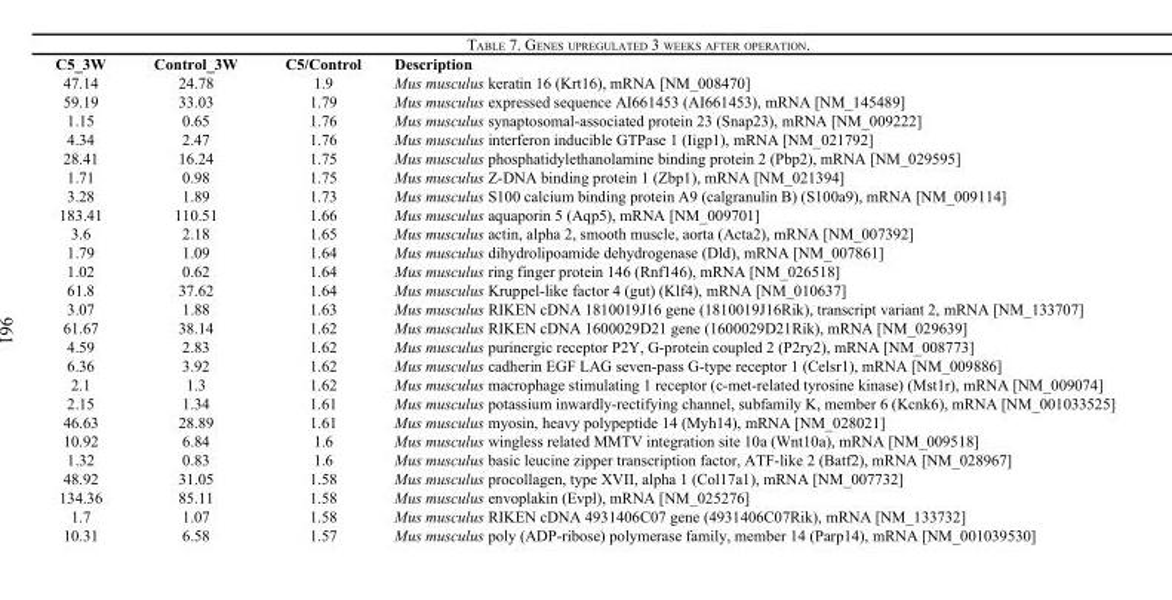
<table><thead><tr><td>C5_3W</td><td>Control_3W</td><td>C5/Control</td><td>Description</td></tr></thead><tbody><tr><td>47.14</td><td>24.78</td><td>1.9</td><td>Mus musculus keratin 16 (Krt16), mRNA [NM_008470]</td></tr><tr><td>59.19</td><td>33.03</td><td>1.79</td><td>Mus musculus expressed sequence AI661453 (AI661453), mRNA [NM_145489]</td></tr><tr><td>1.15</td><td>0.65</td><td>1.76</td><td>Mus musculus synaptosomal-associated protein 23 (Snap23), mRNA [NM_009222]</td></tr><tr><td>4.34</td><td>2.47</td><td>1.76</td><td>Mus musculus interferon inducible GTPase 1 (Iigp1), mRNA [NM_021792]</td></tr><tr><td>28.41</td><td>16.24</td><td>1.75</td><td>Mus musculus phosphatidylethanolamine binding protein 2 (Pbp2), mRNA [NM_029595]</td></tr><tr><td>1.71</td><td>0.98</td><td>1.75</td><td>Mus musculus Z-DNA binding protein 1 (Zbp1), mRNA [NM_021394]</td></tr><tr><td>3.28</td><td>1.89</td><td>1.73</td><td>Mus musculus S100 calcium binding protein A9 (calgranulin B) (S100a9), mRNA [NM_009114]</td></tr><tr><td>183.41</td><td>110.51</td><td>1.66</td><td>Mus musculus aquaporin 5 (Aqp5), mRNA [NM_009701]</td></tr><tr><td>3.6</td><td>2.18</td><td>1.65</td><td>Mus musculus actin, alpha 2, smooth muscle, aorta (Acta2), mRNA [NM_007392]</td></tr><tr><td>1.79</td><td>1.09</td><td>1.64</td><td>Mus musculus dihydrolipoamide dehydrogenase (Dld), mRNA [NM_007861]</td></tr><tr><td>1.02</td><td>0.62</td><td>1.64</td><td>Mus musculus ring finger protein 146 (Rnf146), mRNA [NM_026518]</td></tr><tr><td>61.8</td><td>37.62</td><td>1.64</td><td>Mus musculus Kruppel-like factor 4 (gut) (Klf4), mRNA [NM_010637]</td></tr><tr><td>3.07</td><td>1.88</td><td>1.63</td><td>Mus musculus RIKEN cDNA 1810019J16 gene (1810019J16Rik), transcript variant 2, mRNA [NM_133707]</td></tr><tr><td>61.67</td><td>38.14</td><td>1.62</td><td>Mus musculus RIKEN cDNA 1600029D21 gene (1600029D21Rik), mRNA [NM_029639]</td></tr><tr><td>4.59</td><td>2.83</td><td>1.62</td><td>Mus musculus purinergic receptor P2Y, G-protein coupled 2 (P2ry2), mRNA [NM_008773]</td></tr><tr><td>6.36</td><td>3.92</td><td>1.62</td><td>Mus musculus cadherin EGF LAG seven-pass G-type receptor 1 (Celsr1), mRNA [NM_009886]</td></tr><tr><td>2.1</td><td>1.3</td><td>1.62</td><td>Mus musculus macrophage stimulating 1 receptor (c-met-related tyrosine kinase) (Mst1r), mRNA [NM_009074]</td></tr><tr><td>2.15</td><td>1.34</td><td>1.61</td><td>Mus musculus potassium inwardly-rectifying channel, subfamily K, member 6 (Kcnk6), mRNA [NM_001033525]</td></tr><tr><td>46.63</td><td>28.89</td><td>1.61</td><td>Mus musculus myosin, heavy polypeptide 14 (Myh14), mRNA [NM_028021]</td></tr><tr><td>10.92</td><td>6.84</td><td>1.6</td><td>Mus musculus wingless related MMTV integration site 10a (Wnt10a), mRNA [NM_009518]</td></tr><tr><td>1.32</td><td>0.83</td><td>1.6</td><td>Mus musculus basic leucine zipper transcription factor, ATF-like 2 (Batf2), mRNA [NM_028967]</td></tr><tr><td>48.92</td><td>31.05</td><td>1.58</td><td>Mus musculus procollagen, type XVII, alpha 1 (Col17a1), mRNA [NM_007732]</td></tr><tr><td>134.36</td><td>85.11</td><td>1.58</td><td>Mus musculus envoplakin (Evpl), mRNA [NM_025276]</td></tr><tr><td>1.7</td><td>1.07</td><td>1.58</td><td>Mus musculus RIKEN cDNA 4931406C07 gene (4931406C07Rik), mRNA [NM_133732]</td></tr><tr><td>10.31</td><td>6.58</td><td>1.57</td><td>Mus musculus poly (ADP-ribose) polymerase family, member 14 (Parp14), mRNA [NM_001039530]</td></tr></tbody></table>